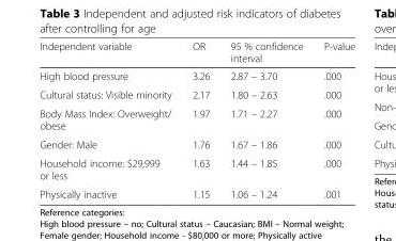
<table><thead><tr><td>Independent variable</td><td>OR</td><td>95 % confidence interval</td><td>P-value</td></tr></thead><tbody><tr><td>High blood pressure</td><td>3.26</td><td>2.87 – 3.70</td><td>.000</td></tr><tr><td>Cultural status: Visible minority</td><td>2.17</td><td>1.80 – 2.63</td><td>.000</td></tr><tr><td>Body Mass Index: Overweight/ obese</td><td>1.97</td><td>1.71 – 2.27</td><td>.000</td></tr><tr><td>Gender: Male</td><td>1.76</td><td>1.67 – 1.86</td><td>.000</td></tr><tr><td>Household income: $29,999 or less</td><td>1.63</td><td>1.44 – 1.85</td><td>.000</td></tr><tr><td>Physically inactive</td><td>1.15</td><td>1.06 – 1.24</td><td>.001</td></tr></tbody></table>